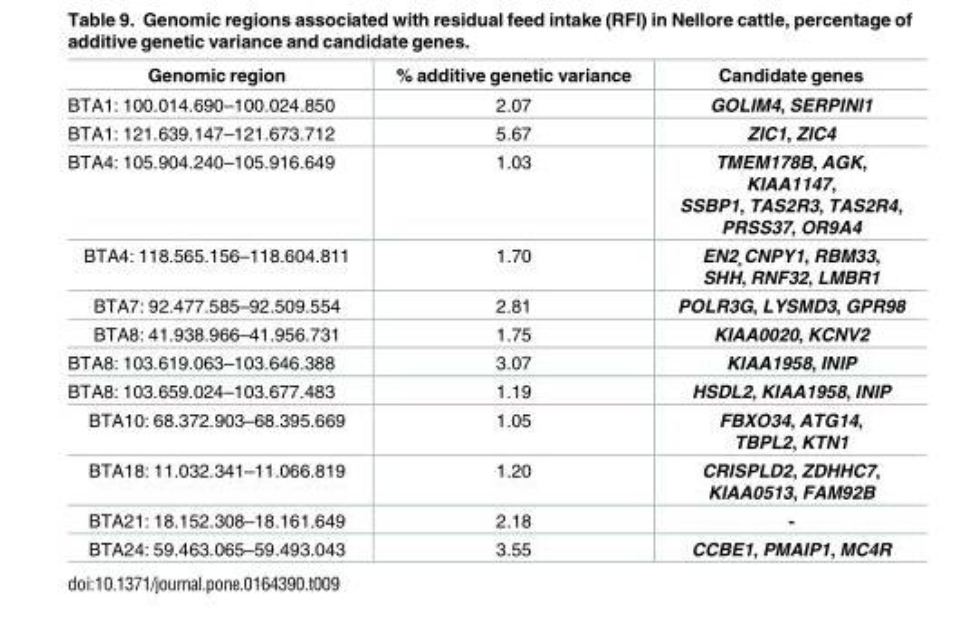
<table><thead><tr><td>Genomic region</td><td>% additive genetic variance</td><td>Candidate genes</td></tr></thead><tbody><tr><td>BTA1: 100.014.690–100.024.850</td><td>2.07</td><td>GOLIM4, SERPINI1</td></tr><tr><td>BTA1: 121.639.147–121.673.712</td><td>5.67</td><td>ZIC1, ZIC4</td></tr><tr><td>BTA4: 105.904.240–105.916.649</td><td>1.03</td><td>TMEM178B, AGK, KIAA1147, SSBP1, TAS2R3, TAS2R4, PRSS37, OR9A4</td></tr><tr><td>BTA4: 118.565.156–118.604.811</td><td>1.70</td><td>EN2¸CNPY1, RBM33, SHH, RNF32, LMBR1</td></tr><tr><td>BTA7: 92.477.585–92.509.554</td><td>2.81</td><td>POLR3G, LYSMD3, GPR98</td></tr><tr><td>BTA8: 41.938.966–41.956.731</td><td>1.75</td><td>KIAA0020, KCNV2</td></tr><tr><td>BTA8: 103.619.063–103.646.388</td><td>3.07</td><td>KIAA1958, INIP</td></tr><tr><td>BTA8: 103.659.024–103.677.483</td><td>1.19</td><td>HSDL2, KIAA1958, INIP</td></tr><tr><td>BTA10: 68.372.903–68.395.669</td><td>1.05</td><td>FBXO34, ATG14, TBPL2, KTN1</td></tr><tr><td>BTA18: 11.032.341–11.066.819</td><td>1.20</td><td>CRISPLD2, ZDHHC7, KIAA0513, FAM92B</td></tr><tr><td>BTA21: 18.152.308–18.161.649</td><td>2.18</td><td>-</td></tr><tr><td>BTA24: 59.463.065–59.493.043</td><td>3.55</td><td>CCBE1, PMAIP1, MC4R</td></tr></tbody></table>